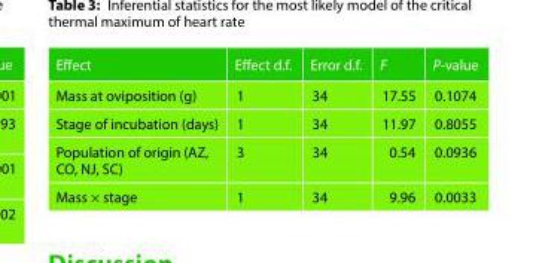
<table><thead><tr><td>Effect</td><td>Effect d.f.</td><td>Error d.f.</td><td>F</td><td>P-value</td></tr></thead><tbody><tr><td>Mass at oviposition (g)</td><td>1</td><td>34</td><td>17.55</td><td>0.1074</td></tr><tr><td>Stage of incubation (days)</td><td>1</td><td>34</td><td>11.97</td><td>0.8055</td></tr><tr><td>Population of origin (AZ, CO, NJ, SC)</td><td>3</td><td>34</td><td>0.54</td><td>0.0936</td></tr><tr><td>Mass × stage</td><td>1</td><td>34</td><td>9.96</td><td>0.0033</td></tr></tbody></table>